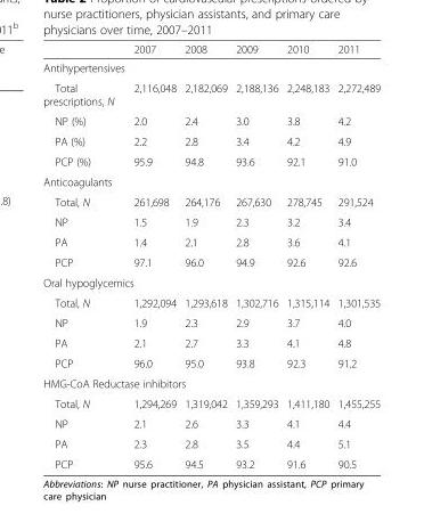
<table><thead><tr><td></td><td>2007</td><td>2008</td><td>2009</td><td>2010</td><td>2011</td></tr></thead><tbody><tr><td colspan="6">Antihypertensives</td></tr><tr><td>Total prescriptions, N</td><td>2,116,048</td><td>2,182,069</td><td>2,188,136</td><td>2,248,183</td><td>2,272,489</td></tr><tr><td>NP (%)</td><td>2.0</td><td>2.4</td><td>3.0</td><td>3.8</td><td>4.2</td></tr><tr><td>PA (%)</td><td>2.2</td><td>2.8</td><td>3.4</td><td>4.2</td><td>4.9</td></tr><tr><td>PCP (%)</td><td>95.9</td><td>94.8</td><td>93.6</td><td>92.1</td><td>91.0</td></tr><tr><td colspan="6">Anticoagulants</td></tr><tr><td>Total, N</td><td>261,698</td><td>264,176</td><td>267,630</td><td>278,745</td><td>291,524</td></tr><tr><td>NP</td><td>1.5</td><td>1.9</td><td>2.3</td><td>3.2</td><td>3.4</td></tr><tr><td>PA</td><td>1.4</td><td>2.1</td><td>2.8</td><td>3.6</td><td>4.1</td></tr><tr><td>PCP</td><td>97.1</td><td>96.0</td><td>94.9</td><td>92.6</td><td>92.6</td></tr><tr><td colspan="6">Oral hypoglycemics</td></tr><tr><td>Total, N</td><td>1,292,094</td><td>1,293,618</td><td>1,302,716</td><td>1,315,114</td><td>1,301,535</td></tr><tr><td>NP</td><td>1.9</td><td>2.3</td><td>2.9</td><td>3.7</td><td>4.0</td></tr><tr><td>PA</td><td>2.1</td><td>2.7</td><td>3.3</td><td>4.1</td><td>4.8</td></tr><tr><td>PCP</td><td>96.0</td><td>95.0</td><td>93.8</td><td>92.3</td><td>91.2</td></tr><tr><td colspan="6">HMG-CoA Reductase inhibitors</td></tr><tr><td>Total, N</td><td>1,294,269</td><td>1,319,042</td><td>1,359,293</td><td>1,411,180</td><td>1,455,255</td></tr><tr><td>NP</td><td>2.1</td><td>2.6</td><td>3.3</td><td>4.1</td><td>4.4</td></tr><tr><td>PA</td><td>2.3</td><td>2.8</td><td>3.5</td><td>4.4</td><td>5.1</td></tr><tr><td>PCP</td><td>95.6</td><td>94.5</td><td>93.2</td><td>91.6</td><td>90.5</td></tr></tbody></table>